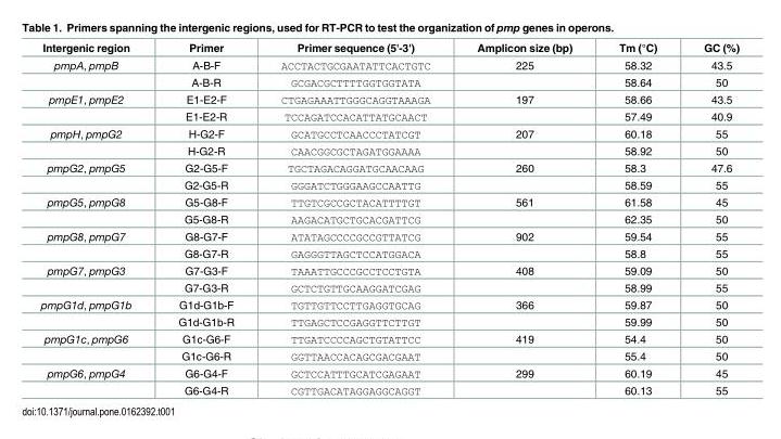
<table><thead><tr><td>Intergenic region</td><td>Primer</td><td>Primer sequence (5&#x27;-3&#x27;)</td><td>Amplicon size (bp)</td><td>Tm (°C)</td><td>GC (%)</td></tr></thead><tbody><tr><td rowspan="2">pmpA, pmpB</td><td>A-B-F</td><td>ACCTACTGCGAATATTCACTGTC</td><td>225</td><td>58.32</td><td>43.5</td></tr><tr><td>A-B-R</td><td>GCGACGCTTTTGGTGGTATA</td><td></td><td>58.64</td><td>50</td></tr><tr><td rowspan="2">pmpE1, pmpE2</td><td>E1-E2-F</td><td>CTGAGAAATTGGGCAGGTAAAGA</td><td>197</td><td>58.66</td><td>43.5</td></tr><tr><td>E1-E2-R</td><td>TCCAGATCCACATTATGCAACT</td><td></td><td>57.49</td><td>40.9</td></tr><tr><td rowspan="2">pmpH, pmpG2</td><td>H-G2-F</td><td>GCATGCCTCAACCCTATCGT</td><td>207</td><td>60.18</td><td>55</td></tr><tr><td>H-G2-R</td><td>CAACGGCGCTAGATGGAAAA</td><td></td><td>58.92</td><td>50</td></tr><tr><td rowspan="2">pmpG2, pmpG5</td><td>G2-G5-F</td><td>TGCTAGACAGGATGCAACAAG</td><td>260</td><td>58.3</td><td>47.6</td></tr><tr><td>G2-G5-R</td><td>GGGATCTGGGAAGCCAATTG</td><td></td><td>58.59</td><td>55</td></tr><tr><td rowspan="2">pmpG5, pmpG8</td><td>G5-G8-F</td><td>TTGTCGCCGCTACATTTTGT</td><td>561</td><td>61.58</td><td>45</td></tr><tr><td>G5-G8-R</td><td>AAGACATGCTGCACGATTCG</td><td></td><td>62.35</td><td>50</td></tr><tr><td rowspan="2">pmpG8, pmpG7</td><td>G8-G7-F</td><td>ATATAGCCCCGCCGTTATCG</td><td>902</td><td>59.54</td><td>55</td></tr><tr><td>G8-G7-R</td><td>GAGGGTTAGCTCCATGGACA</td><td></td><td>58.8</td><td>55</td></tr><tr><td rowspan="2">pmpG7, pmpG3</td><td>G7-G3-F</td><td>TAAATTGCCCGCCTCCTGTA</td><td>408</td><td>59.09</td><td>50</td></tr><tr><td>G7-G3-R</td><td>GCTCTGTTGCAAGGATCGAG</td><td></td><td>58.99</td><td>55</td></tr><tr><td rowspan="2">pmpG1d, pmpG1b</td><td>G1d-G1b-F</td><td>TGTTGTTCCTTGAGGTGCAG</td><td>366</td><td>59.87</td><td>50</td></tr><tr><td>G1d-G1b-R</td><td>TTGAGCTCCGAGGTTCTTGT</td><td></td><td>59.99</td><td>50</td></tr><tr><td rowspan="2">pmpG1c, pmpG6</td><td>G1c-G6-F</td><td>TTGATCCCCAGCTGTATTCC</td><td>419</td><td>54.4</td><td>50</td></tr><tr><td>G1c-G6-R</td><td>GGTTAACCACAGCGACGAAT</td><td></td><td>55.4</td><td>50</td></tr><tr><td rowspan="2">pmpG6, pmpG4</td><td>G6-G4-F</td><td>GCTCCATTTGCATCGAGAAT</td><td>299</td><td>60.19</td><td>45</td></tr><tr><td>G6-G4-R</td><td>CGTTGACATAGGAGGCAGGT</td><td></td><td>60.13</td><td>55</td></tr></tbody></table>